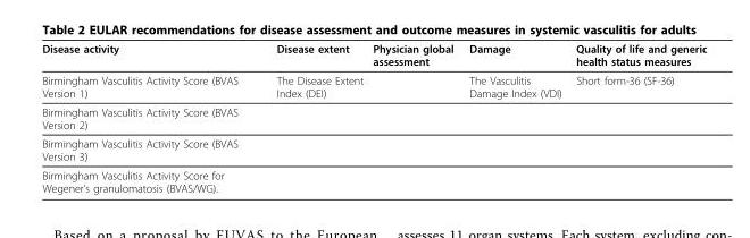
<table><thead><tr><td>Disease activity</td><td>Disease extent</td><td>Physician global assessment</td><td>Damage</td><td>Quality of life and generic health status measures</td></tr></thead><tbody><tr><td>Birmingham Vasculitis Activity Score (BVAS Version 1)</td><td>The Disease Extent Index (DEI)</td><td></td><td>The Vasculitis Damage Index (VDI)</td><td>Short form-36 (SF-36)</td></tr><tr><td colspan="5">Birmingham Vasculitis Activity Score (BVAS Version 2)</td></tr><tr><td colspan="5">Birmingham Vasculitis Activity Score (BVAS Version 3)</td></tr><tr><td>Birmingham Vasculitis Activity Score for Wegener’s granulomatosis (BVAS/WG).</td><td></td><td></td><td></td><td></td></tr></tbody></table>